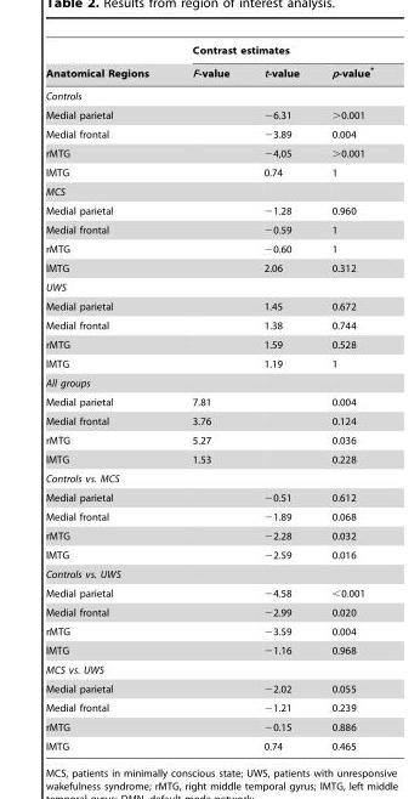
<table><thead><tr><td rowspan="2">Anatomical Regions</td><td colspan="3">Contrast estimates</td></tr><tr><td>F-value</td><td>t-value</td><td>p-value*</td></tr></thead><tbody><tr><td colspan="4">Controls</td></tr><tr><td>Medial parietal</td><td></td><td>−6.31</td><td>&gt;0.001</td></tr><tr><td>Medial frontal</td><td></td><td>−3.89</td><td>0.004</td></tr><tr><td>rMTG</td><td></td><td>−4,05</td><td>&gt;0.001</td></tr><tr><td>lMTG</td><td></td><td>0.74</td><td>1</td></tr><tr><td colspan="4">MCS</td></tr><tr><td>Medial parietal</td><td></td><td>−1.28</td><td>0.960</td></tr><tr><td>Medial frontal</td><td></td><td>−0.59</td><td>1</td></tr><tr><td>rMTG</td><td></td><td>−0.60</td><td>1</td></tr><tr><td>lMTG</td><td></td><td>2.06</td><td>0.312</td></tr><tr><td colspan="4">UWS</td></tr><tr><td>Medial parietal</td><td></td><td>1.45</td><td>0.672</td></tr><tr><td>Medial frontal</td><td></td><td>1.38</td><td>0.744</td></tr><tr><td>rMTG</td><td></td><td>1.59</td><td>0.528</td></tr><tr><td>lMTG</td><td></td><td>1.19</td><td>1</td></tr><tr><td colspan="4">All groups</td></tr><tr><td>Medial parietal</td><td>7.81</td><td></td><td>0.004</td></tr><tr><td>Medial frontal</td><td>3.76</td><td></td><td>0.124</td></tr><tr><td>rMTG</td><td>5.27</td><td></td><td>0.036</td></tr><tr><td>lMTG</td><td>1.53</td><td></td><td>0.228</td></tr><tr><td colspan="4">Controls vs. MCS</td></tr><tr><td>Medial parietal</td><td></td><td>−0.51</td><td>0.612</td></tr><tr><td>Medial frontal</td><td></td><td>−1.89</td><td>0.068</td></tr><tr><td>rMTG</td><td></td><td>−2.28</td><td>0.032</td></tr><tr><td>lMTG</td><td></td><td>−2.59</td><td>0.016</td></tr><tr><td colspan="4">Controls vs. UWS</td></tr><tr><td>Medial parietal</td><td></td><td>−4.58</td><td>&lt;0.001</td></tr><tr><td>Medial frontal</td><td></td><td>−2.99</td><td>0.020</td></tr><tr><td>rMTG</td><td></td><td>−3.59</td><td>0.004</td></tr><tr><td>lMTG</td><td></td><td>−1.16</td><td>0.968</td></tr><tr><td colspan="4">MCS vs. UWS</td></tr><tr><td>Medial parietal</td><td></td><td>−2.02</td><td>0.055</td></tr><tr><td>Medial frontal</td><td></td><td>−1.21</td><td>0.239</td></tr><tr><td>rMTG</td><td></td><td>−0.15</td><td>0.886</td></tr><tr><td>lMTG</td><td></td><td>0.74</td><td>0.465</td></tr></tbody></table>